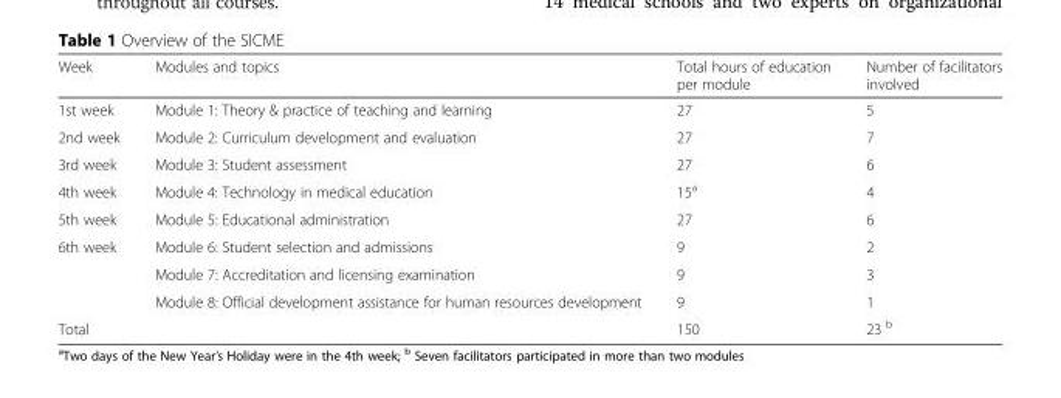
<table><thead><tr><td>Week</td><td>Modules and topics</td><td>Total hours of education per module</td><td>Number of facilitators involved</td></tr></thead><tbody><tr><td>1st week</td><td>Module 1: Theory &amp; practice of teaching and learning</td><td>27</td><td>5</td></tr><tr><td>2nd week</td><td>Module 2: Curriculum development and evaluation</td><td>27</td><td>7</td></tr><tr><td>3rd week</td><td>Module 3: Student assessment</td><td>27</td><td>6</td></tr><tr><td>4th week</td><td>Module 4: Technology in medical education</td><td>15<sup>a</sup></td><td>4</td></tr><tr><td>5th week</td><td>Module 5: Educational administration</td><td>27</td><td>6</td></tr><tr><td rowspan="3">6th week</td><td>Module 6: Student selection and admissions</td><td>9</td><td>2</td></tr><tr><td>Module 7: Accreditation and licensing examination</td><td>9</td><td>3</td></tr><tr><td>Module 8: Official development assistance for human resources development</td><td>9</td><td>1</td></tr><tr><td colspan="2">Total</td><td>150</td><td>23 <sup>b</sup></td></tr></tbody></table>